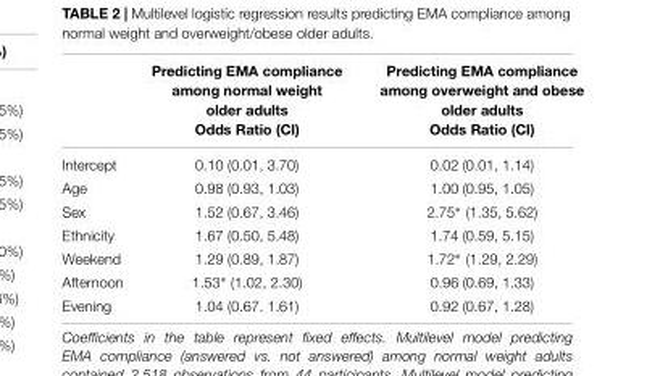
<table><thead><tr><td></td><td>Predicting EMA compliance among normal weight older adults Odds Ratio (CI)</td><td>Predicting EMA compliance among overweight and obese older adults Odds Ratio (CI)</td></tr></thead><tbody><tr><td>Intercept</td><td>0.10 (0.01, 3.70)</td><td>0.02 (0.01, 1.14)</td></tr><tr><td>Age</td><td>0.98 (0.93, 1.03)</td><td>1.00 (0.95, 1.05)</td></tr><tr><td>Sex</td><td>1.52 (0.67, 3.46)</td><td>2.75∗ (1.35, 5.62)</td></tr><tr><td>Ethnicity</td><td>1.67 (0.50, 5.48)</td><td>1.74 (0.59, 5.15)</td></tr><tr><td>Weekend</td><td>1.29 (0.89, 1.87)</td><td>1.72∗ (1.29, 2.29)</td></tr><tr><td>Afternoon</td><td>1.53∗ (1.02, 2.30)</td><td>0.96 (0.69, 1.33)</td></tr><tr><td>Evening</td><td>1.04 (0.67. 1.61)</td><td>0.92 (0.67, 1.28)</td></tr></tbody></table>